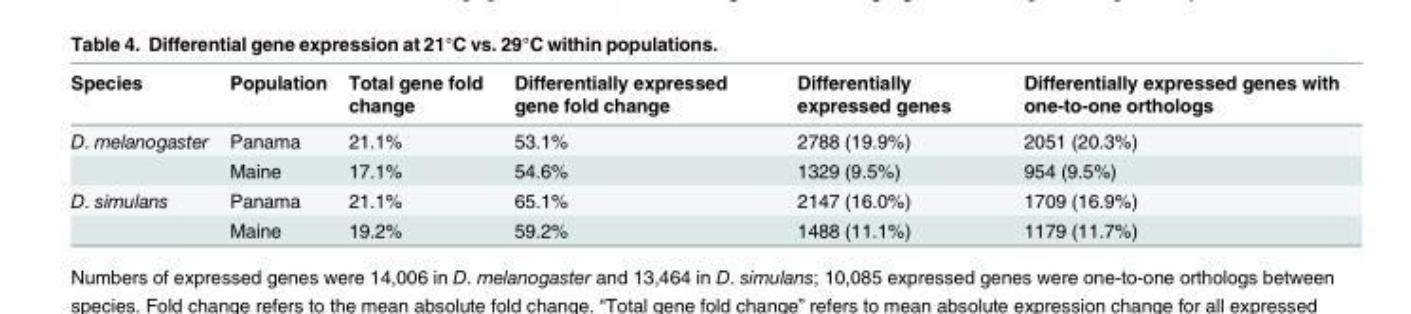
<table><thead><tr><td>Species</td><td>Population</td><td>Total gene fold change</td><td>Differentially expressed gene fold change</td><td>Differentially expressed genes</td><td>Differentially expressed genes with one-to-one orthologs</td></tr></thead><tbody><tr><td rowspan="2">D. melanogaster</td><td>Panama</td><td>21.1%</td><td>53.1%</td><td>2788 (19.9%)</td><td>2051 (20.3%)</td></tr><tr><td>Maine</td><td>17.1%</td><td>54.6%</td><td>1329 (9.5%)</td><td>954 (9.5%)</td></tr><tr><td rowspan="2">D. simulans</td><td>Panama</td><td>21.1%</td><td>65.1%</td><td>2147 (16.0%)</td><td>1709 (16.9%)</td></tr><tr><td>Maine</td><td>19.2%</td><td>59.2%</td><td>1488 (11.1%)</td><td>1179 (11.7%)</td></tr></tbody></table>